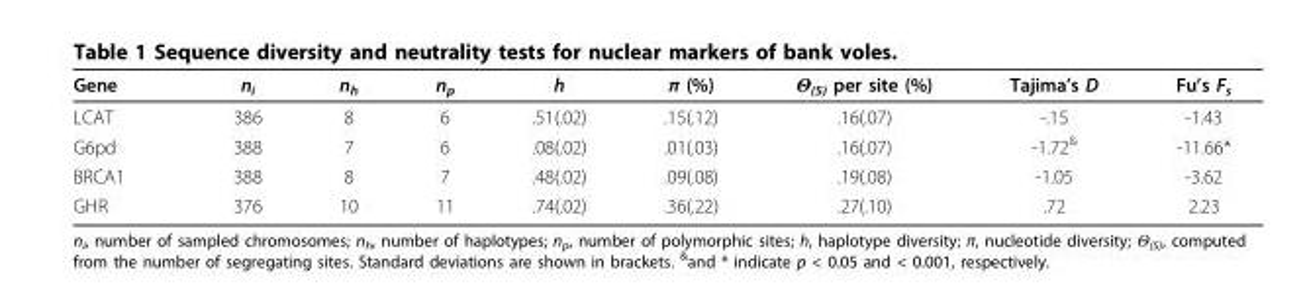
<table><thead><tr><td>Gene</td><td>n<sub>i</sub></td><td>n<sub>h</sub></td><td>n<sub>p</sub></td><td>h</td><td>π (%)</td><td>Θ<sub>(S)</sub> per site (%)</td><td>Tajima’s D</td><td>Fu’s F<sub>s</sub></td></tr></thead><tbody><tr><td>LCAT</td><td>386</td><td>8</td><td>6</td><td>.51(.02)</td><td>.15(.12)</td><td>.16(.07)</td><td>-.15</td><td>-1.43</td></tr><tr><td>G6pd</td><td>388</td><td>7</td><td>6</td><td>.08(.02)</td><td>.01(.03)</td><td>.16(.07)</td><td>-1.72<sup>&amp;</sup></td><td>-11.66*</td></tr><tr><td>BRCA1</td><td>388</td><td>8</td><td>7</td><td>.48(.02)</td><td>.09(.08)</td><td>.19(.08)</td><td>-1.05</td><td>-3.62</td></tr><tr><td>GHR</td><td>376</td><td>10</td><td>11</td><td>.74(.02)</td><td>.36(.22)</td><td>.27(.10)</td><td>.72</td><td>2.23</td></tr></tbody></table>